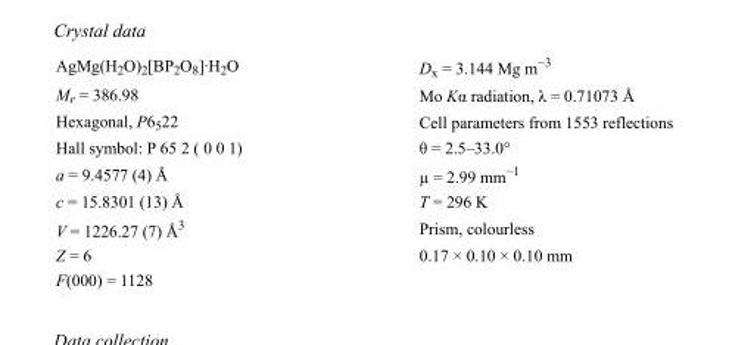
<table><tbody><tr><td>AgMg(H<sub>2</sub>O)<sub>2</sub>[BP<sub>2</sub>O<sub>8</sub>]·H<sub>2</sub>O</td><td>D<sub>x</sub> = 3.144 Mg m<sup>−3</sup></td></tr><tr><td>M<sub>r</sub> = 386.98</td><td>Mo Kα radiation, λ = 0.71073 Å</td></tr><tr><td>Hexagonal, P6<sub>5</sub>22</td><td>Cell parameters from 1553 reflections</td></tr><tr><td>Hall symbol: P 65 2 ( 0 0 1)</td><td>θ = 2.5–33.0°</td></tr><tr><td>a = 9.4577 (4) Å</td><td>µ = 2.99 mm<sup>−1</sup></td></tr><tr><td>c = 15.8301 (13) Å</td><td>T = 296 K</td></tr><tr><td>V = 1226.27 (7) Å<sup>3</sup></td><td>Prism, colourless</td></tr><tr><td>Z = 6</td><td>0.17 × 0.10 × 0.10 mm</td></tr><tr><td>F(000) = 1128</td><td></td></tr></tbody></table>